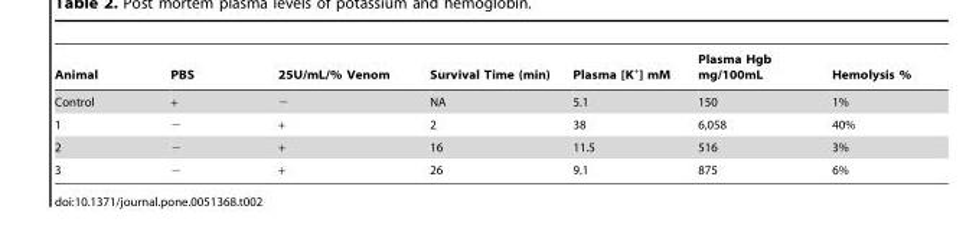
<table><thead><tr><td>Animal</td><td>PBS</td><td>25U/mL/% Venom</td><td>Survival Time (min)</td><td>Plasma [K<sup>+</sup>] mM</td><td>Plasma Hgb mg/100mL</td><td>Hemolysis %</td></tr></thead><tbody><tr><td>Control</td><td>+</td><td>−</td><td>NA</td><td>5.1</td><td>150</td><td>1%</td></tr><tr><td>1</td><td>−</td><td>+</td><td>2</td><td>38</td><td>6,058</td><td>40%</td></tr><tr><td>2</td><td>−</td><td>+</td><td>16</td><td>11.5</td><td>516</td><td>3%</td></tr><tr><td>3</td><td>−</td><td>+</td><td>26</td><td>9.1</td><td>875</td><td>6%</td></tr></tbody></table>